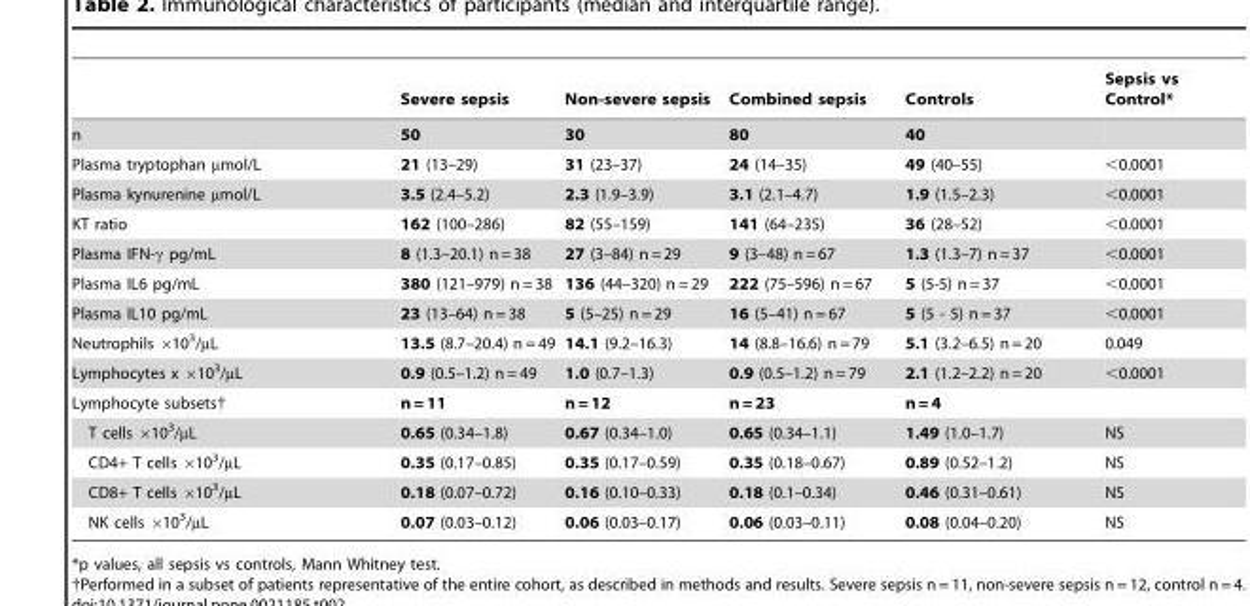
<table><thead><tr><td></td><td>Severe sepsis</td><td>Non-severe sepsis</td><td>Combined sepsis</td><td>Controls</td><td>Sepsis vs Control*</td></tr></thead><tbody><tr><td>n</td><td>50</td><td>30</td><td>80</td><td>40</td><td></td></tr><tr><td>Plasma tryptophan µmol/L</td><td>21 (13–29)</td><td>31 (23–37)</td><td>24 (14–35)</td><td>49 (40–55)</td><td>&lt;0.0001</td></tr><tr><td>Plasma kynurenine µmol/L</td><td>3.5 (2.4–5.2)</td><td>2.3 (1.9–3.9)</td><td>3.1 (2.1–4.7)</td><td>1.9 (1.5–2.3)</td><td>&lt;0.0001</td></tr><tr><td>KT ratio</td><td>162 (100–286)</td><td>82 (55–159)</td><td>141 (64–235)</td><td>36 (28–52)</td><td>&lt;0.0001</td></tr><tr><td>Plasma IFN-γ pg/mL</td><td>8 (1.3–20.1) n = 38</td><td>27 (3–84) n = 29</td><td>9 (3–48) n = 67</td><td>1.3 (1.3–7) n = 37</td><td>&lt;0.0001</td></tr><tr><td>Plasma IL6 pg/mL</td><td>380 (121–979) n = 38</td><td>136 (44–320) n = 29</td><td>222 (75–596) n = 67</td><td>5 (5-5) n = 37</td><td>&lt;0.0001</td></tr><tr><td>Plasma IL10 pg/mL</td><td>23 (13–64) n = 38</td><td>5 (5–25) n = 29</td><td>16 (5–41) n = 67</td><td>5 (5 - 5) n = 37</td><td>&lt;0.0001</td></tr><tr><td>Neutrophils ×10<sup>3</sup>/µL</td><td>13.5 (8.7–20.4) n = 49</td><td>14.1 (9.2–16.3)</td><td>14 (8.8–16.6) n = 79</td><td>5.1 (3.2–6.5) n = 20</td><td>0.049</td></tr><tr><td>Lymphocytes x ×10<sup>3</sup>/µL</td><td>0.9 (0.5–1.2) n = 49</td><td>1.0 (0.7–1.3)</td><td>0.9 (0.5–1.2) n = 79</td><td>2.1 (1.2–2.2) n = 20</td><td>&lt;0.0001</td></tr><tr><td>Lymphocyte subsets†</td><td>n = 11</td><td>n = 12</td><td>n = 23</td><td>n = 4</td><td></td></tr><tr><td>T cells ×10<sup>3</sup>/µL</td><td>0.65 (0.34–1.8)</td><td>0.67 (0.34–1.0)</td><td>0.65 (0.34–1.1)</td><td>1.49 (1.0–1.7)</td><td>NS</td></tr><tr><td>CD4+ T cells ×10<sup>3</sup>/µL</td><td>0.35 (0.17–0.85)</td><td>0.35 (0.17–0.59)</td><td>0.35 (0.18–0.67)</td><td>0.89 (0.52–1.2)</td><td>NS</td></tr><tr><td>CD8+ T cells ×10<sup>3</sup>/µL</td><td>0.18 (0.07–0.72)</td><td>0.16 (0.10–0.33)</td><td>0.18 (0.1–0.34)</td><td>0.46 (0.31–0.61)</td><td>NS</td></tr><tr><td>NK cells ×10<sup>3</sup>/µL</td><td>0.07 (0.03–0.12)</td><td>0.06 (0.03–0.17)</td><td>0.06 (0.03–0.11)</td><td>0.08 (0.04–0.20)</td><td>NS</td></tr></tbody></table>